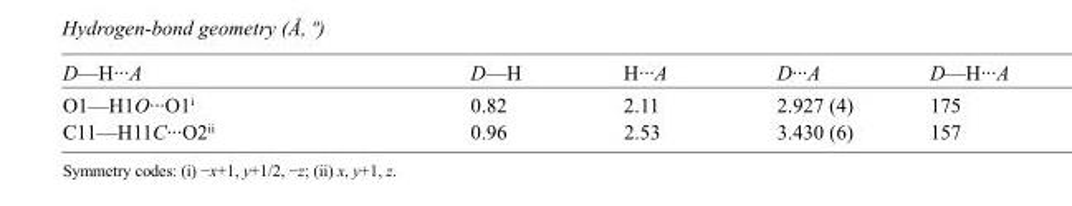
<table><tbody><tr><td>D—H···A</td><td>D—H</td><td>H···A</td><td>D···A</td><td>D—H···A</td></tr><tr><td>O1—H1O···O1<sup>i</sup></td><td>0.82</td><td>2.11</td><td>2.927 (4)</td><td>175</td></tr><tr><td>C11—H11C···O2<sup>ii</sup></td><td>0.96</td><td>2.53</td><td>3.430 (6)</td><td>157</td></tr></tbody></table>